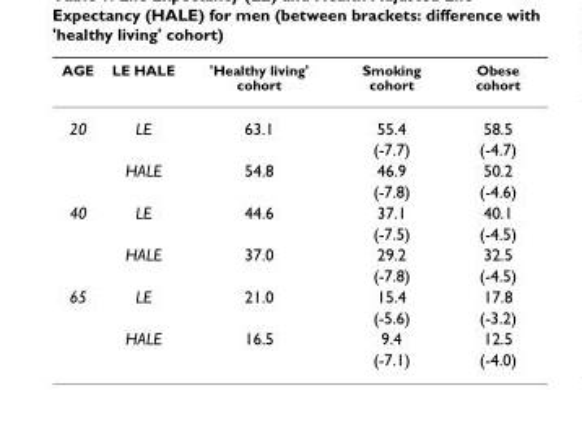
<table><thead><tr><td>AGE</td><td>LE HALE</td><td>&#x27;Healthy living&#x27; cohort</td><td>Smoking cohort</td><td>Obese cohort</td></tr></thead><tbody><tr><td rowspan="4">20</td><td>LE</td><td>63.1</td><td>55.4</td><td>58.5</td></tr><tr><td></td><td></td><td>(-7.7)</td><td>(-4.7)</td></tr><tr><td>HALE</td><td>54.8</td><td>46.9</td><td>50.2</td></tr><tr><td></td><td></td><td>(-7.8)</td><td>(-4.6)</td></tr><tr><td rowspan="4">40</td><td>LE</td><td>44.6</td><td>37.1</td><td>40.1</td></tr><tr><td></td><td></td><td>(-7.5)</td><td>(-4.5)</td></tr><tr><td>HALE</td><td>37.0</td><td>29.2</td><td>32.5</td></tr><tr><td></td><td></td><td>(-7.8)</td><td>(-4.5)</td></tr><tr><td rowspan="4">65</td><td>LE</td><td>21.0</td><td>15.4</td><td>17.8</td></tr><tr><td></td><td></td><td>(-5.6)</td><td>(-3.2)</td></tr><tr><td>HALE</td><td>16.5</td><td>9.4</td><td>12.5</td></tr><tr><td></td><td></td><td>(-7.1)</td><td>(-4.0)</td></tr></tbody></table>